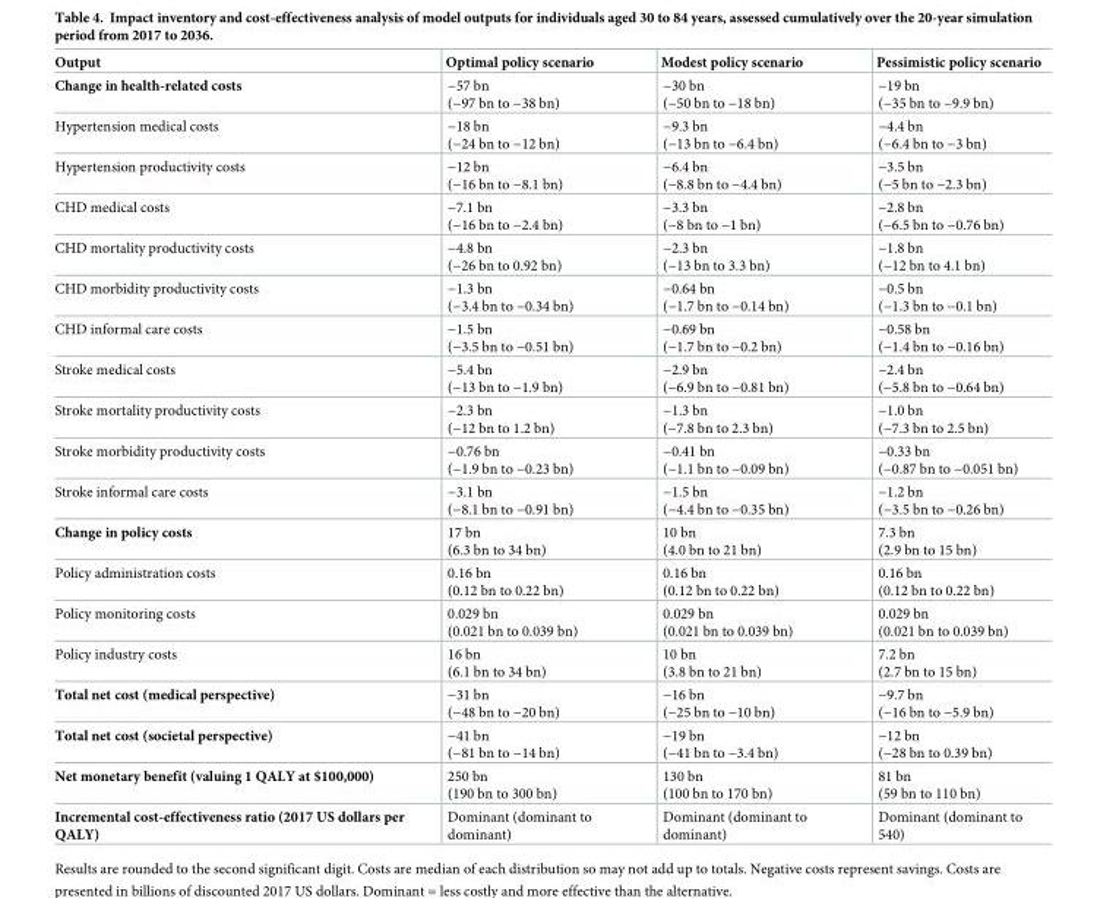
<table><thead><tr><td>Output</td><td>Optimal policy scenario</td><td>Modest policy scenario</td><td>Pessimistic policy scenario</td></tr></thead><tbody><tr><td>Change in health-related costs</td><td>−57 bn (−97 bn to −38 bn)</td><td>−30 bn (−50 bn to −18 bn)</td><td>−19 bn (−35 bn to −9.9 bn)</td></tr><tr><td>Hypertension medical costs</td><td>−18 bn (−24 bn to −12 bn)</td><td>−9.3 bn (−13 bn to −6.4 bn)</td><td>−4.4 bn (−6.4 bn to −3 bn)</td></tr><tr><td>Hypertension productivity costs</td><td>−12 bn (−16 bn to −8.1 bn)</td><td>−6.4 bn (−8.8 bn to −4.4 bn)</td><td>−3.5 bn (−5 bn to −2.3 bn)</td></tr><tr><td>CHD medical costs</td><td>−7.1 bn (−16 bn to −2.4 bn)</td><td>−3.3 bn (−8 bn to −1 bn)</td><td>−2.8 bn (−6.5 bn to −0.76 bn)</td></tr><tr><td>CHD mortality productivity costs</td><td>−4.8 bn (−26 bn to 0.92 bn)</td><td>−2.3 bn (−13 bn to 3.3 bn)</td><td>−1.8 bn (−12 bn to 4.1 bn)</td></tr><tr><td>CHD morbidity productivity costs</td><td>−1.3 bn (−3.4 bn to −0.34 bn)</td><td>−0.64 bn (−1.7 bn to −0.14 bn)</td><td>−0.5 bn (−1.3 bn to −0.1 bn)</td></tr><tr><td>CHD informal care costs</td><td>−1.5 bn (−3.5 bn to −0.51 bn)</td><td>−0.69 bn (−1.7 bn to −0.2 bn)</td><td>−0.58 bn (−1.4 bn to −0.16 bn)</td></tr><tr><td>Stroke medical costs</td><td>−5.4 bn (−13 bn to −1.9 bn)</td><td>−2.9 bn (−6.9 bn to −0.81 bn)</td><td>−2.4 bn (−5.8 bn to −0.64 bn)</td></tr><tr><td>Stroke mortality productivity costs</td><td>−2.3 bn (−12 bn to 1.2 bn)</td><td>−1.3 bn (−7.8 bn to 2.3 bn)</td><td>−1.0 bn (−7.3 bn to 2.5 bn)</td></tr><tr><td>Stroke morbidity productivity costs</td><td>−0.76 bn (−1.9 bn to −0.23 bn)</td><td>−0.41 bn (−1.1 bn to −0.09 bn)</td><td>−0.33 bn (−0.87 bn to −0.051 bn)</td></tr><tr><td>Stroke informal care costs</td><td>−3.1 bn (−8.1 bn to −0.91 bn)</td><td>−1.5 bn (−4.4 bn to −0.35 bn)</td><td>−1.2 bn (−3.5 bn to −0.26 bn)</td></tr><tr><td>Change in policy costs</td><td>17 bn (6.3 bn to 34 bn)</td><td>10 bn (4.0 bn to 21 bn)</td><td>7.3 bn (2.9 bn to 15 bn)</td></tr><tr><td>Policy administration costs</td><td>0.16 bn (0.12 bn to 0.22 bn)</td><td>0.16 bn (0.12 bn to 0.22 bn)</td><td>0.16 bn (0.12 bn to 0.22 bn)</td></tr><tr><td>Policy monitoring costs</td><td>0.029 bn (0.021 bn to 0.039 bn)</td><td>0.029 bn (0.021 bn to 0.039 bn)</td><td>0.029 bn (0.021 bn to 0.039 bn)</td></tr><tr><td>Policy industry costs</td><td>16 bn (6.1 bn to 34 bn)</td><td>10 bn (3.8 bn to 21 bn)</td><td>7.2 bn (2.7 bn to 15 bn)</td></tr><tr><td>Total net cost (medical perspective)</td><td>−31 bn (−48 bn to −20 bn)</td><td>−16 bn (−25 bn to −10 bn)</td><td>−9.7 bn (−16 bn to −5.9 bn)</td></tr><tr><td>Total net cost (societal perspective)</td><td>−41 bn (−81 bn to −14 bn)</td><td>−19 bn (−41 bn to −3.4 bn)</td><td>−12 bn (−28 bn to 0.39 bn)</td></tr><tr><td>Net monetary benefit (valuing 1 QALY at $100,000)</td><td>250 bn (190 bn to 300 bn)</td><td>130 bn (100 bn to 170 bn)</td><td>81 bn (59 bn to 110 bn)</td></tr><tr><td>Incremental cost-effectiveness ratio (2017 US dollars per QALY)</td><td>Dominant (dominant to dominant)</td><td>Dominant (dominant to dominant)</td><td>Dominant (dominant to 540)</td></tr></tbody></table>